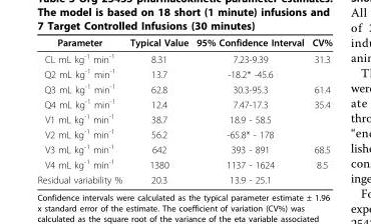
<table><thead><tr><td>Parameter</td><td>Typical Value</td><td>95% Confidence Interval</td><td>CV%</td></tr></thead><tbody><tr><td>CL mL kg<sup>-1</sup> min<sup>-1</sup></td><td>8.31</td><td>7.23-9.39</td><td>31.3</td></tr><tr><td>Q2 mL kg<sup>-1</sup> min<sup>-1</sup></td><td>13.7</td><td>-18.2* -45.6</td><td></td></tr><tr><td>Q3 mL kg<sup>-1</sup> min<sup>-1</sup></td><td>62.8</td><td>30.3-95.3</td><td>61.4</td></tr><tr><td>Q4 mL kg<sup>-1</sup> min<sup>-1</sup></td><td>12.4</td><td>7.47-17.3</td><td>35.4</td></tr><tr><td>V1 mL kg<sup>-1</sup> min<sup>-1</sup></td><td>38.7</td><td>18.9 - 58.5</td><td></td></tr><tr><td>V2 mL kg<sup>-1</sup> min<sup>-1</sup></td><td>56.2</td><td>-65.8* - 178</td><td></td></tr><tr><td>V3 mL kg<sup>-1</sup> min<sup>-1</sup></td><td>642</td><td>393 - 891</td><td>68.5</td></tr><tr><td>V4 mL kg<sup>-1</sup> min<sup>-1</sup></td><td>1380</td><td>1137 - 1624</td><td>8.5</td></tr><tr><td>Residual variability %</td><td>20.3</td><td>13.9 - 25.1</td><td></td></tr></tbody></table>